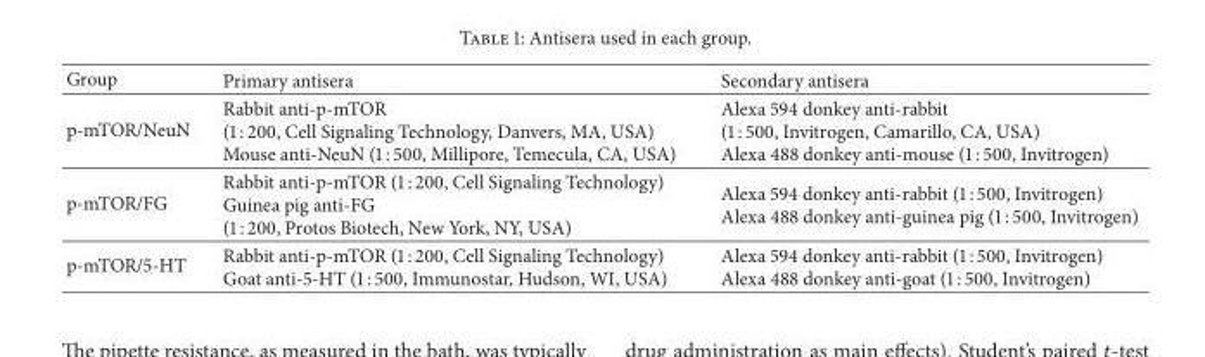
<table><thead><tr><td>Group</td><td>Primary antisera</td><td>Secondary antisera</td></tr></thead><tbody><tr><td>p-mTOR/NeuN</td><td>Rabbit anti-p-mTOR (1 : 200, Cell Signaling Technology, Danvers, MA, USA) Mouse anti-NeuN (1 : 500, Millipore, Temecula, CA, USA)</td><td>Alexa 594 donkey anti-rabbit (1 : 500, Invitrogen, Camarillo, CA, USA) Alexa 488 donkey anti-mouse (1 : 500, Invitrogen)</td></tr><tr><td>p-mTOR/FG</td><td>Rabbit anti-p-mTOR (1 : 200, Cell Signaling Technology) Guinea pig anti-FG (1 : 200, Protos Biotech, New York, NY, USA)</td><td>Alexa 594 donkey anti-rabbit (1 : 500, Invitrogen) Alexa 488 donkey anti-guinea pig (1 : 500, Invitrogen)</td></tr><tr><td>p-mTOR/5-HT</td><td>Rabbit anti-p-mTOR (1 : 200, Cell Signaling Technology) Goat anti-5-HT (1 : 500, Immunostar, Hudson, WI, USA)</td><td>Alexa 594 donkey anti-rabbit (1 : 500, Invitrogen) Alexa 488 donkey anti-goat (1 : 500, Invitrogen)</td></tr></tbody></table>